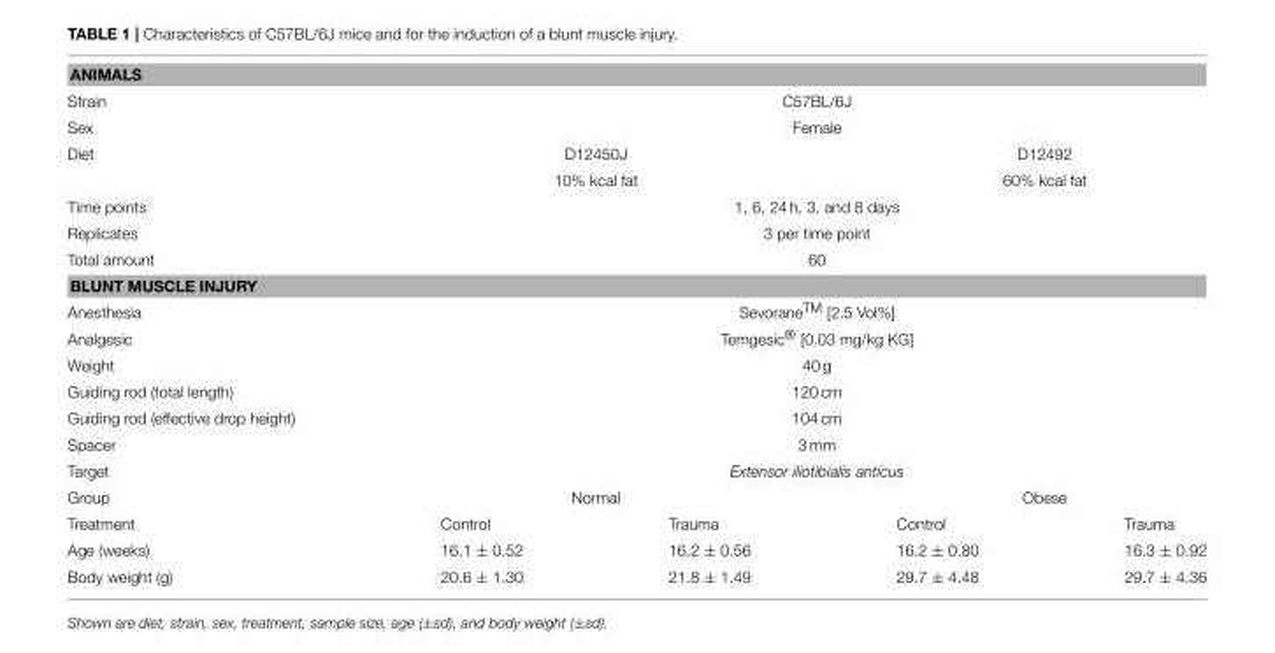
<table><tbody><tr><td colspan="5">ANIMALS</td></tr><tr><td>Strain</td><td colspan="4">C57BL/6J</td></tr><tr><td>Sex</td><td colspan="4">Female</td></tr><tr><td rowspan="2">Diet</td><td colspan="2">D12450J</td><td colspan="2">D12492</td></tr><tr><td colspan="2">10% kcal fat</td><td colspan="2">60% kcal fat</td></tr><tr><td>Time points</td><td colspan="4">1, 6, 24 h, 3, and 8 days</td></tr><tr><td>Replicates</td><td colspan="4">3 per time point</td></tr><tr><td>Total amount</td><td colspan="4">60</td></tr><tr><td colspan="5">BLUNT MUSCLE INJURY</td></tr><tr><td>Anesthesia</td><td colspan="4">SevoraneTM [2.5 Vol%]</td></tr><tr><td>Analgesic</td><td colspan="4">Temgesic<sup>®</sup> [0.03 mg/kg KG]</td></tr><tr><td>Weight</td><td colspan="4">40 g</td></tr><tr><td>Guiding rod (total length)</td><td colspan="4">120 cm</td></tr><tr><td>Guiding rod (effective drop height)</td><td colspan="4">104 cm</td></tr><tr><td>Spacer</td><td colspan="4">3 mm</td></tr><tr><td>Target</td><td colspan="4">Extensor iliotibialis anticus</td></tr><tr><td>Group</td><td colspan="2">Normal</td><td colspan="2">Obese</td></tr><tr><td>Treatment</td><td>Control</td><td>Trauma</td><td>Control</td><td>Trauma</td></tr><tr><td>Age (weeks)</td><td>16.1 ± 0.52</td><td>16.2 ± 0.56</td><td>16.2 ± 0.80</td><td>16.3 ± 0.92</td></tr><tr><td>Body weight (g)</td><td>20.6 ± 1.30</td><td>21.8 ± 1.49</td><td>29.7 ± 4.48</td><td>29.7 ± 4.36</td></tr></tbody></table>